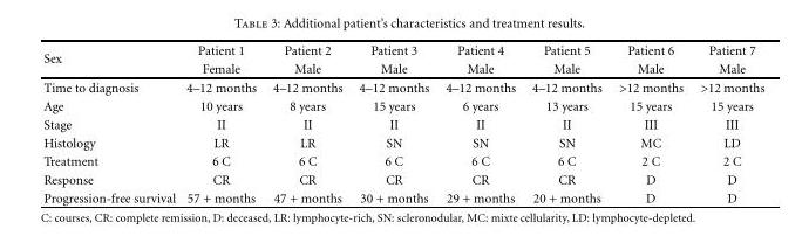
<table><thead><tr><td rowspan="2">Sex</td><td rowspan="2">Patient 1 Female</td><td rowspan="2">Patient 2 Male</td><td rowspan="2">Patient 3 Male</td><td rowspan="2">Patient 4 Male</td><td rowspan="2">Patient 5 Male</td><td rowspan="2">Patient 6 Male</td><td rowspan="2">Patient 7 Male</td></tr><tr></tr></thead><tbody><tr><td>Time to diagnosis</td><td>4–12 months</td><td>4–12 months</td><td>4–12 months</td><td>4–12 months</td><td>4–12 months</td><td>&gt;12 months</td><td>&gt;12 months</td></tr><tr><td>Age</td><td>10 years</td><td>8 years</td><td>15 years</td><td>6 years</td><td>13 years</td><td>15 years</td><td>15 years</td></tr><tr><td>Stage</td><td>II</td><td>II</td><td>II</td><td>II</td><td>II</td><td>III</td><td>III</td></tr><tr><td>Histology</td><td>LR</td><td>LR</td><td>SN</td><td>SN</td><td>SN</td><td>MC</td><td>LD</td></tr><tr><td>Treatment</td><td>6 C</td><td>6 C</td><td>6 C</td><td>6 C</td><td>6 C</td><td>2 C</td><td>2 C</td></tr><tr><td>Response</td><td>CR</td><td>CR</td><td>CR</td><td>CR</td><td>CR</td><td>D</td><td>D</td></tr><tr><td>Progression-free survival</td><td>57 + months</td><td>47 + months</td><td>30 + months</td><td>29 + months</td><td>20 + months</td><td>D</td><td>D</td></tr></tbody></table>